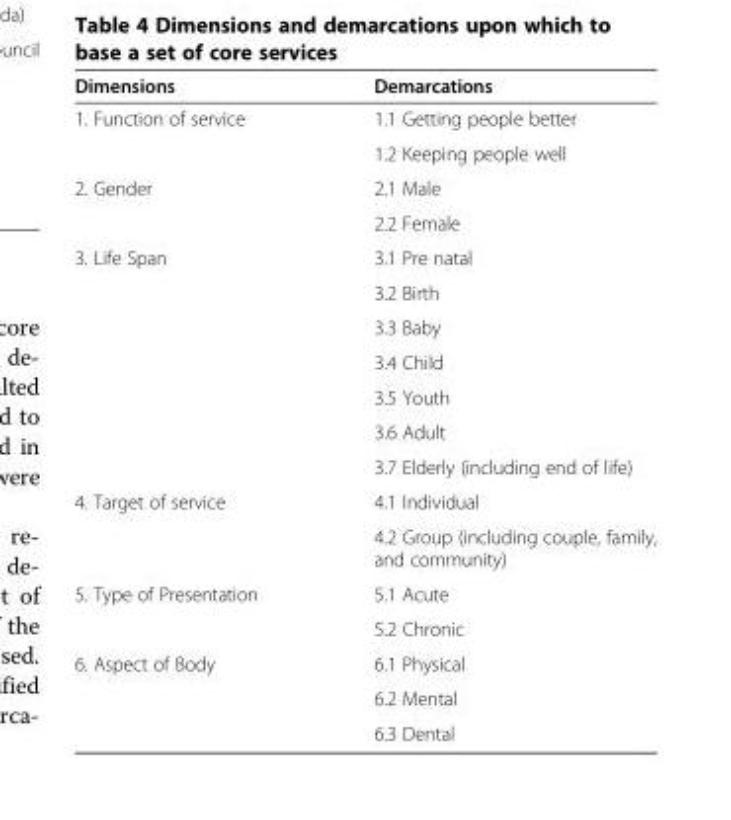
<table><thead><tr><td>Dimensions</td><td>Demarcations</td></tr></thead><tbody><tr><td rowspan="2">1. Function of service</td><td>1.1 Getting people better</td></tr><tr><td>1.2 Keeping people well</td></tr><tr><td rowspan="2">2. Gender</td><td>2.1 Male</td></tr><tr><td>2.2 Female</td></tr><tr><td rowspan="7">3. Life Span</td><td>3.1 Pre natal</td></tr><tr><td>3.2 Birth</td></tr><tr><td>3.3 Baby</td></tr><tr><td>3.4 Child</td></tr><tr><td>3.5 Youth</td></tr><tr><td>3.6 Adult</td></tr><tr><td>3.7 Elderly (including end of life)</td></tr><tr><td rowspan="2">4. Target of service</td><td>4.1 Individual</td></tr><tr><td>4.2 Group (including couple, family, and community)</td></tr><tr><td rowspan="2">5. Type of Presentation</td><td>5.1 Acute</td></tr><tr><td>5.2 Chronic</td></tr><tr><td rowspan="3">6. Aspect of Body</td><td>6.1 Physical</td></tr><tr><td>6.2 Mental</td></tr><tr><td>6.3 Dental</td></tr></tbody></table>